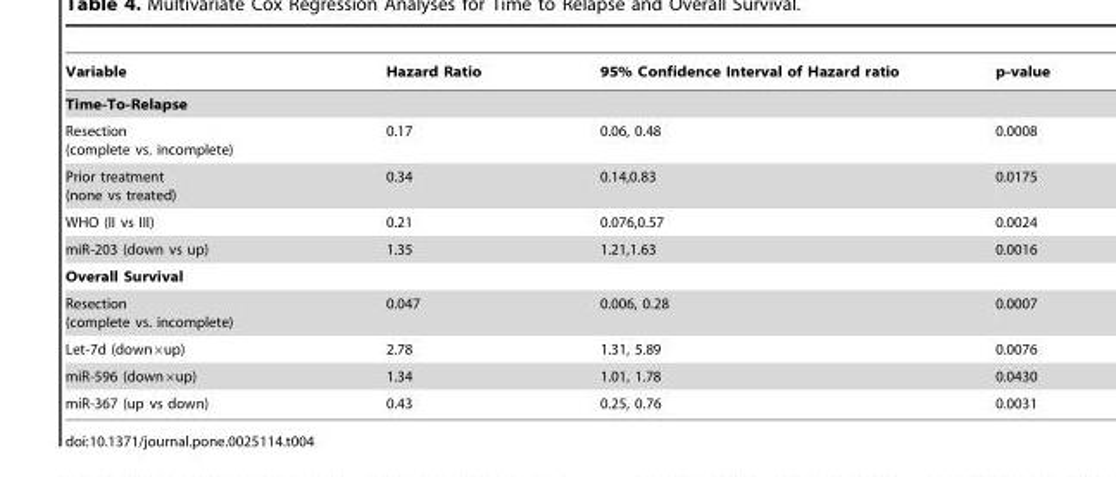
<table><thead><tr><td>Variable</td><td>Hazard Ratio</td><td>95% Confidence Interval of Hazard ratio</td><td>p-value</td></tr></thead><tbody><tr><td colspan="4">Time-To-Relapse</td></tr><tr><td>Resection (complete vs. incomplete)</td><td>0.17</td><td>0.06, 0.48</td><td>0.0008</td></tr><tr><td>Prior treatment (none vs treated)</td><td>0.34</td><td>0.14,0.83</td><td>0.0175</td></tr><tr><td>WHO (II vs III)</td><td>0.21</td><td>0.076,0.57</td><td>0.0024</td></tr><tr><td>miR-203 (down vs up)</td><td>1.35</td><td>1.21,1.63</td><td>0.0016</td></tr><tr><td colspan="4">Overall Survival</td></tr><tr><td>Resection (complete vs. incomplete)</td><td>0.047</td><td>0.006, 0.28</td><td>0.0007</td></tr><tr><td>Let-7d (down×up)</td><td>2.78</td><td>1.31, 5.89</td><td>0.0076</td></tr><tr><td>miR-596 (down×up)</td><td>1.34</td><td>1.01, 1.78</td><td>0.0430</td></tr><tr><td>miR-367 (up vs down)</td><td>0.43</td><td>0.25, 0.76</td><td>0.0031</td></tr></tbody></table>